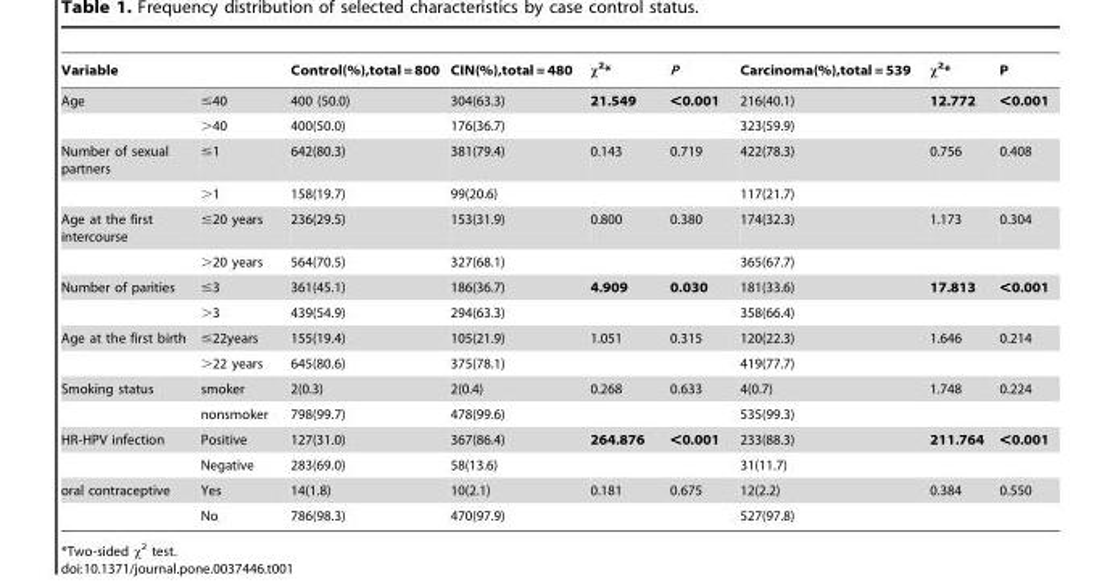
<table><thead><tr><td colspan="2">Variable</td><td rowspan="2">Control(%),total = 800 400 (50.0)</td><td rowspan="2">CIN(%),total = 480 304(63.3)</td><td rowspan="2">χ<sup>2</sup>* 21.549</td><td rowspan="2">P &lt;0.001</td><td rowspan="2">Carcinoma(%),total = 539 216(40.1)</td><td rowspan="2">χ<sup>2</sup>* 12.772</td><td rowspan="2">P &lt;0.001</td></tr><tr><td>Age</td><td>≤40</td></tr></thead><tbody><tr><td></td><td>&gt;40</td><td>400(50.0)</td><td>176(36.7)</td><td></td><td></td><td>323(59.9)</td><td></td><td></td></tr><tr><td rowspan="2">Number of sexual partners</td><td>≤1</td><td>642(80.3)</td><td>381(79.4)</td><td>0.143</td><td>0.719</td><td>422(78.3)</td><td>0.756</td><td>0.408</td></tr><tr><td>&gt;1</td><td>158(19.7)</td><td>99(20.6)</td><td></td><td></td><td>117(21.7)</td><td></td><td></td></tr><tr><td rowspan="2">Age at the first intercourse</td><td>≤20 years</td><td>236(29.5)</td><td>153(31.9)</td><td>0.800</td><td>0.380</td><td>174(32.3)</td><td>1.173</td><td>0.304</td></tr><tr><td>&gt;20 years</td><td>564(70.5)</td><td>327(68.1)</td><td></td><td></td><td>365(67.7)</td><td></td><td></td></tr><tr><td rowspan="2">Number of parities</td><td>≤3</td><td>361(45.1)</td><td>186(36.7)</td><td>4.909</td><td>0.030</td><td>181(33.6)</td><td>17.813</td><td>&lt;0.001</td></tr><tr><td>&gt;3</td><td>439(54.9)</td><td>294(63.3)</td><td></td><td></td><td>358(66.4)</td><td></td><td></td></tr><tr><td rowspan="2">Age at the first birth</td><td>≤22years</td><td>155(19.4)</td><td>105(21.9)</td><td>1.051</td><td>0.315</td><td>120(22.3)</td><td>1.646</td><td>0.214</td></tr><tr><td>&gt;22 years</td><td>645(80.6)</td><td>375(78.1)</td><td></td><td></td><td>419(77.7)</td><td></td><td></td></tr><tr><td rowspan="2">Smoking status</td><td>smoker</td><td>2(0.3)</td><td>2(0.4)</td><td>0.268</td><td>0.633</td><td>4(0.7)</td><td>1.748</td><td>0.224</td></tr><tr><td>nonsmoker</td><td>798(99.7)</td><td>478(99.6)</td><td></td><td></td><td>535(99.3)</td><td></td><td></td></tr><tr><td rowspan="2">HR-HPV infection</td><td>Positive</td><td>127(31.0)</td><td>367(86.4)</td><td>264.876</td><td>&lt;0.001</td><td>233(88.3)</td><td>211.764</td><td>&lt;0.001</td></tr><tr><td>Negative</td><td>283(69.0)</td><td>58(13.6)</td><td></td><td></td><td>31(11.7)</td><td></td><td></td></tr><tr><td rowspan="2">oral contraceptive</td><td>Yes</td><td>14(1.8)</td><td>10(2.1)</td><td>0.181</td><td>0.675</td><td>12(2.2)</td><td>0.384</td><td>0.550</td></tr><tr><td>No</td><td>786(98.3)</td><td>470(97.9)</td><td></td><td></td><td>527(97.8)</td><td></td><td></td></tr></tbody></table>